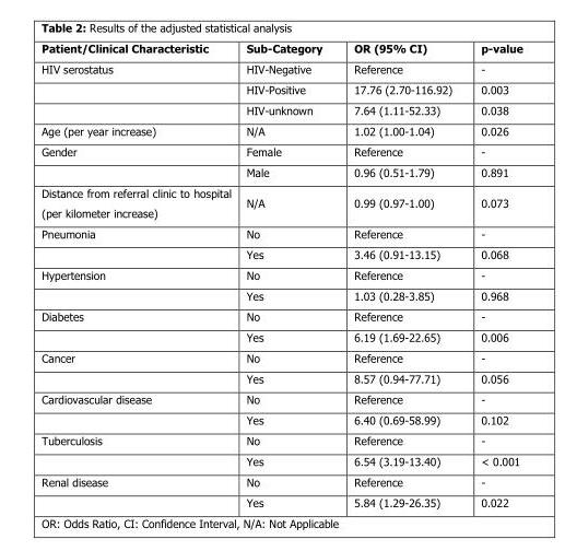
<table><thead><tr><td>Patient/Clinical Characteristic</td><td>Sub-Category</td><td>OR (95% CI)</td><td>p-value</td></tr></thead><tbody><tr><td rowspan="3">HIV serostatus</td><td>HIV-Negative</td><td>Reference</td><td>-</td></tr><tr><td>HIV-Positive</td><td>17.76 (2.70-116.92)</td><td>0.003</td></tr><tr><td>HIV-unknown</td><td>7.64 (1.11-52.33)</td><td>0.038</td></tr><tr><td>Age (per year increase)</td><td>N/A</td><td>1.02 (1.00-1.04)</td><td>0.026</td></tr><tr><td rowspan="2">Gender</td><td>Female</td><td>Reference</td><td>-</td></tr><tr><td>Male</td><td>0.96 (0.51-1.79)</td><td>0.891</td></tr><tr><td>Distance from referral clinic to hospital (per kilometer increase)</td><td>N/A</td><td>0.99 (0.97-1.00)</td><td>0.073</td></tr><tr><td rowspan="2">Pneumonia</td><td>No</td><td>Reference</td><td>-</td></tr><tr><td>Yes</td><td>3.46 (0.91-13.15)</td><td>0.068</td></tr><tr><td rowspan="2">Hypertension</td><td>No</td><td>Reference</td><td>-</td></tr><tr><td>Yes</td><td>1.03 (0.28-3.85)</td><td>0.968</td></tr><tr><td rowspan="2">Diabetes</td><td>No</td><td>Reference</td><td>-</td></tr><tr><td>Yes</td><td>6.19 (1.69-22.65)</td><td>0.006</td></tr><tr><td rowspan="2">Cancer</td><td>No</td><td>Reference</td><td>-</td></tr><tr><td>Yes</td><td>8.57 (0.94-77.71)</td><td>0.056</td></tr><tr><td rowspan="2">Cardiovascular disease</td><td>No</td><td>Reference</td><td>-</td></tr><tr><td>Yes</td><td>6.40 (0.69-58.99)</td><td>0.102</td></tr><tr><td rowspan="2">Tuberculosis</td><td>No</td><td>Reference</td><td>-</td></tr><tr><td>Yes</td><td>6.54 (3.19-13.40)</td><td>&lt; 0.001</td></tr><tr><td rowspan="2">Renal disease</td><td>No</td><td>Reference</td><td>-</td></tr><tr><td>Yes</td><td>5.84 (1.29-26.35)</td><td>0.022</td></tr></tbody></table>